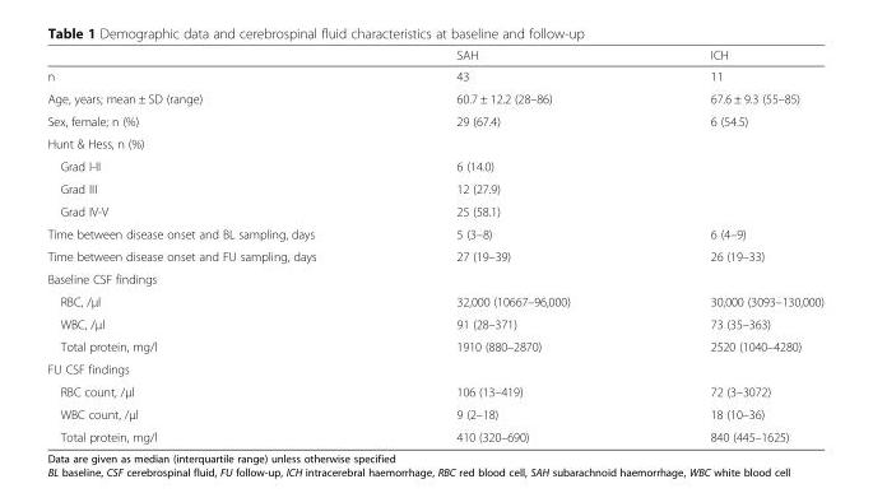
<table><thead><tr><td></td><td>SAH</td><td>ICH</td></tr></thead><tbody><tr><td>n</td><td>43</td><td>11</td></tr><tr><td>Age, years; mean ± SD (range)</td><td>60.7 ± 12.2 (28–86)</td><td>67.6 ± 9.3 (55–85)</td></tr><tr><td>Sex, female; n (%)</td><td>29 (67.4)</td><td>6 (54.5)</td></tr><tr><td colspan="3">Hunt &amp; Hess, n (%)</td></tr><tr><td>Grad I-II</td><td>6 (14.0)</td><td rowspan="3"></td></tr><tr><td>Grad III</td><td>12 (27.9)</td></tr><tr><td>Grad IV-V</td><td>25 (58.1)</td></tr><tr><td>Time between disease onset and BL sampling, days</td><td>5 (3–8)</td><td>6 (4–9)</td></tr><tr><td>Time between disease onset and FU sampling, days</td><td>27 (19–39)</td><td>26 (19–33)</td></tr><tr><td colspan="3">Baseline CSF findings</td></tr><tr><td>RBC, /μl</td><td>32,000 (10667–96,000)</td><td>30,000 (3093–130,000)</td></tr><tr><td>WBC, /μl</td><td>91 (28–371)</td><td>73 (35–363)</td></tr><tr><td>Total protein, mg/l</td><td>1910 (880–2870)</td><td>2520 (1040–4280)</td></tr><tr><td colspan="3">FU CSF findings</td></tr><tr><td>RBC count, /μl</td><td>106 (13–419)</td><td>72 (3–3072)</td></tr><tr><td>WBC count, /μl</td><td>9 (2–18)</td><td>18 (10–36)</td></tr><tr><td>Total protein, mg/l</td><td>410 (320–690)</td><td>840 (445–1625)</td></tr></tbody></table>